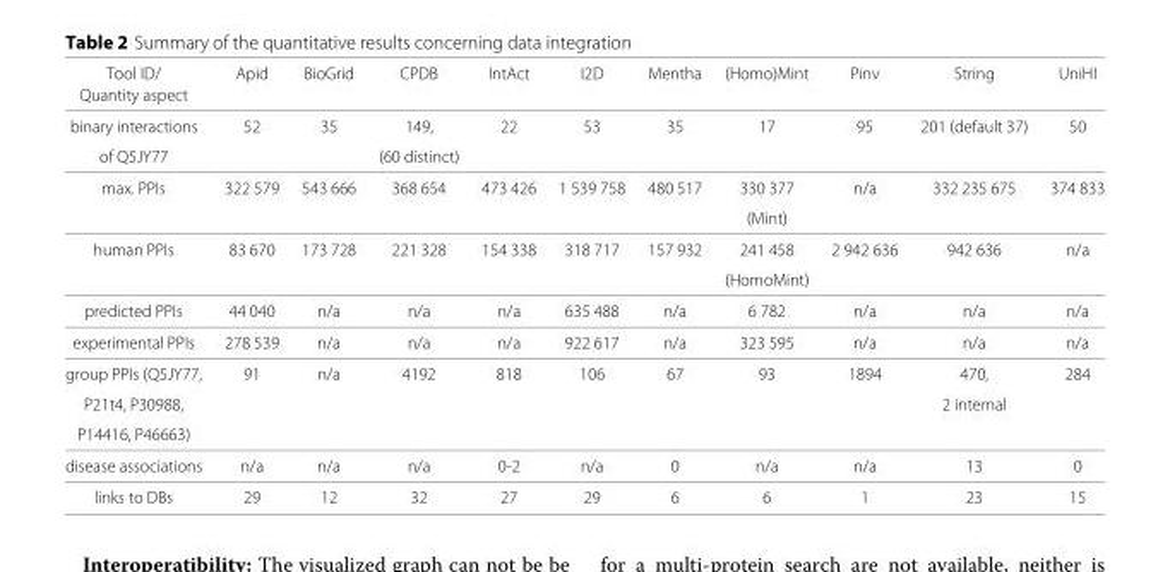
<table><thead><tr><td rowspan="2">Tool ID/ Quantity aspect</td><td rowspan="2">Apid</td><td rowspan="2">BioGrid</td><td rowspan="2">CPDB</td><td rowspan="2">IntAct</td><td rowspan="2">I2D</td><td rowspan="2">Mentha</td><td rowspan="2">(Homo)Mint</td><td rowspan="2">Pinv</td><td rowspan="2">String</td><td rowspan="2">UniHI</td></tr><tr></tr></thead><tbody><tr><td>binary interactions</td><td>52</td><td>35</td><td>149,</td><td>22</td><td>53</td><td>35</td><td>17</td><td>95</td><td>201 (default 37)</td><td>50</td></tr><tr><td>of Q5JY77</td><td></td><td></td><td>(60 distinct)</td><td></td><td></td><td></td><td></td><td></td><td></td><td></td></tr><tr><td rowspan="2">max. PPIs</td><td>322 579</td><td>543 666</td><td>368 654</td><td>473 426</td><td>1 539 758</td><td>480 517</td><td>330 377</td><td>n/a</td><td>332 235 675</td><td>374 833</td></tr><tr><td></td><td></td><td></td><td></td><td></td><td></td><td>(Mint)</td><td></td><td></td><td></td></tr><tr><td rowspan="2">human PPIs</td><td>83 670</td><td>173 728</td><td>221 328</td><td>154 338</td><td>318 717</td><td>157 932</td><td>241 458</td><td>2 942 636</td><td>942 636</td><td>n/a</td></tr><tr><td></td><td></td><td></td><td></td><td></td><td></td><td>(HomoMint)</td><td></td><td></td><td></td></tr><tr><td>predicted PPIs</td><td>44 040</td><td>n/a</td><td>n/a</td><td>n/a</td><td>635 488</td><td>n/a</td><td>6 782</td><td>n/a</td><td>n/a</td><td>n/a</td></tr><tr><td>experimental PPIs</td><td>278 539</td><td>n/a</td><td>n/a</td><td>n/a</td><td>922 617</td><td>n/a</td><td>323 595</td><td>n/a</td><td>n/a</td><td>n/a</td></tr><tr><td>group PPIs (Q5JY77,</td><td>91</td><td>n/a</td><td>4192</td><td>818</td><td>106</td><td>67</td><td>93</td><td>1894</td><td>470,</td><td>284</td></tr><tr><td>P21t4, P30988,</td><td></td><td></td><td></td><td></td><td></td><td></td><td></td><td></td><td>2 internal</td><td></td></tr><tr><td colspan="11">P14416, P46663)</td></tr><tr><td>disease associations</td><td>n/a</td><td>n/a</td><td>n/a</td><td>0-2</td><td>n/a</td><td>0</td><td>n/a</td><td>n/a</td><td>13</td><td>0</td></tr><tr><td>links to DBs</td><td>29</td><td>12</td><td>32</td><td>27</td><td>29</td><td>6</td><td>6</td><td>1</td><td>23</td><td>15</td></tr></tbody></table>